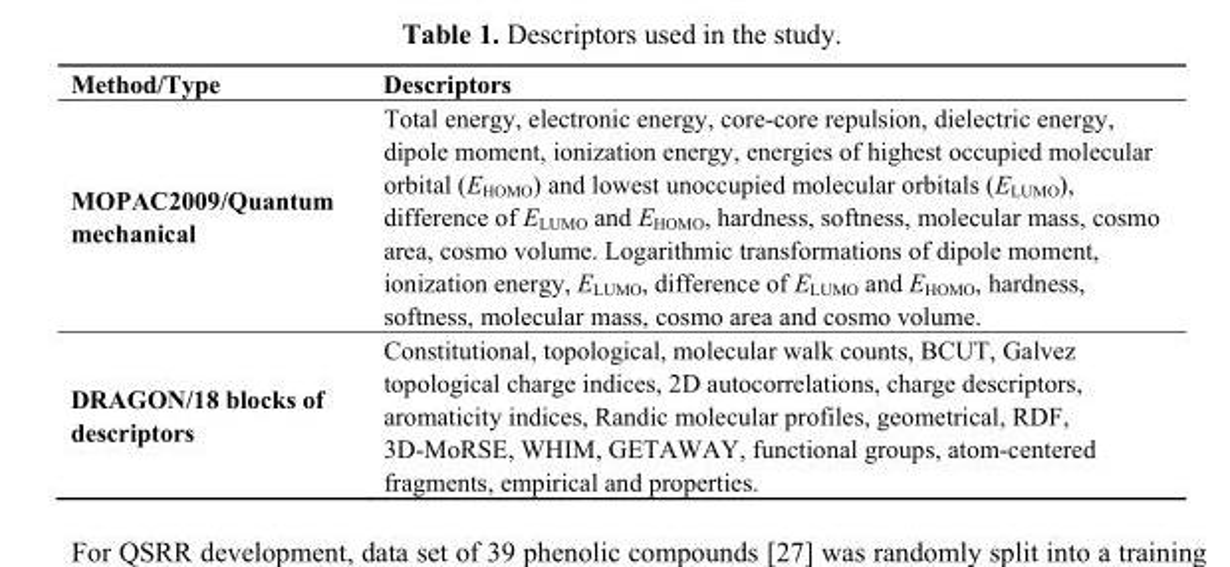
<table><thead><tr><td>Method/Type</td><td>Descriptors</td></tr></thead><tbody><tr><td>MOPAC2009/Quantum mechanical</td><td>Total energy, electronic energy, core-core repulsion, dielectric energy, dipole moment, ionization energy, energies of highest occupied molecular orbital (E<sub>HOMO</sub>) and lowest unoccupied molecular orbitals (E<sub>LUMO</sub>), difference of E<sub>LUMO</sub> and E<sub>HOMO</sub>, hardness, softness, molecular mass, cosmo area, cosmo volume. Logarithmic transformations of dipole moment, ionization energy, E<sub>LUMO</sub>, difference of E<sub>LUMO</sub> and E<sub>HOMO</sub>, hardness, softness, molecular mass, cosmo area and cosmo volume.</td></tr><tr><td>DRAGON/18 blocks of descriptors</td><td>Constitutional, topological, molecular walk counts, BCUT, Galvez topological charge indices, 2D autocorrelations, charge descriptors, aromaticity indices, Randic molecular profiles, geometrical, RDF, 3D-MoRSE, WHIM, GETAWAY, functional groups, atom-centered fragments, empirical and properties.</td></tr></tbody></table>